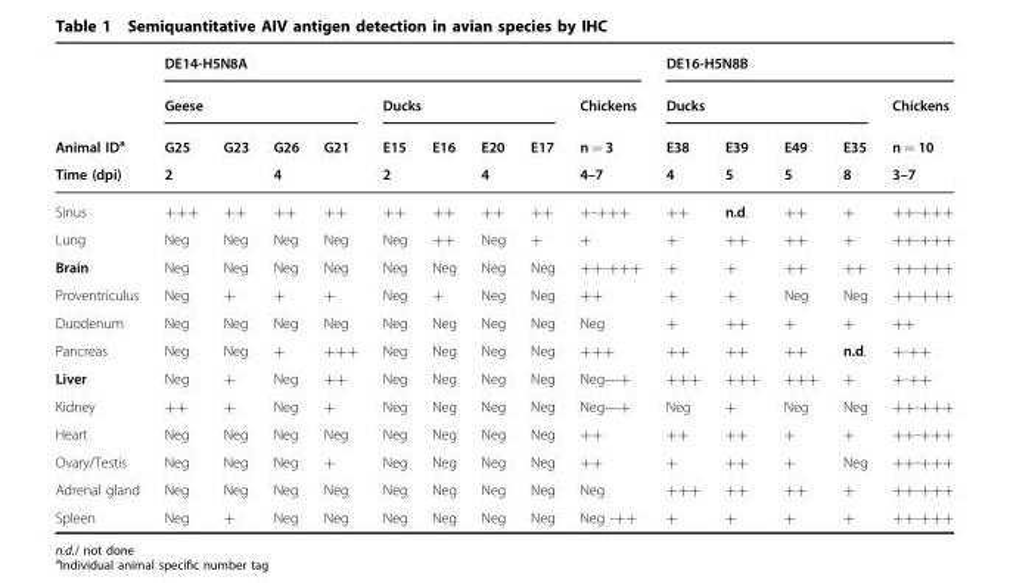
<table><thead><tr><td rowspan="4">Animal ID<sup>a</sup> Time (dpi)</td><td colspan="9">DE14-H5N8A</td><td colspan="5">DE16-H5N8B</td></tr><tr><td colspan="4">Geese</td><td colspan="4">Ducks</td><td rowspan="3">Chickens n = 3 4–7</td><td colspan="4">Ducks</td><td rowspan="3">Chickens n = 10 3–7</td></tr><tr><td>G25</td><td>G23</td><td>G26</td><td>G21</td><td>E15</td><td>E16</td><td>E20</td><td>E17</td><td rowspan="2">E38 4</td><td rowspan="2">E39 5</td><td rowspan="2">E49 5</td><td rowspan="2">E35 8</td></tr><tr><td colspan="2">2</td><td colspan="2">4</td><td colspan="2">2</td><td colspan="2">4</td></tr></thead><tbody><tr><td>Sinus</td><td>+++</td><td>++</td><td>++</td><td>++</td><td>++</td><td>++</td><td>++</td><td>++</td><td>+-+++</td><td>++</td><td>n.d.</td><td>++</td><td>+</td><td>++-+++</td></tr><tr><td>Lung</td><td>Neg</td><td>Neg</td><td>Neg</td><td>Neg</td><td>Neg</td><td>++</td><td>Neg</td><td>+</td><td>+</td><td>+</td><td>++</td><td>++</td><td>+</td><td>++-+++</td></tr><tr><td>Brain</td><td>Neg</td><td>Neg</td><td>Neg</td><td>Neg</td><td>Neg</td><td>Neg</td><td>Neg</td><td>Neg</td><td>++-+++</td><td>+</td><td>+</td><td>++</td><td>++</td><td>++-+++</td></tr><tr><td>Proventriculus</td><td>Neg</td><td>+</td><td>+</td><td>+</td><td>Neg</td><td>+</td><td>Neg</td><td>Neg</td><td>++</td><td>+</td><td>+</td><td>Neg</td><td>Neg</td><td>++-+++</td></tr><tr><td>Duodenum</td><td>Neg</td><td>Neg</td><td>Neg</td><td>Neg</td><td>Neg</td><td>Neg</td><td>Neg</td><td>Neg</td><td>Neg</td><td>+</td><td>++</td><td>+</td><td>+</td><td>++</td></tr><tr><td>Pancreas</td><td>Neg</td><td>Neg</td><td>+</td><td>+++</td><td>Neg</td><td>Neg</td><td>Neg</td><td>Neg</td><td>+++</td><td>++</td><td>++</td><td>++</td><td>n.d.</td><td>+-++</td></tr><tr><td>Liver</td><td>Neg</td><td>+</td><td>Neg</td><td>++</td><td>Neg</td><td>Neg</td><td>Neg</td><td>Neg</td><td>Neg—+</td><td>+++</td><td>+++</td><td>+++</td><td>+</td><td>+-++</td></tr><tr><td>Kidney</td><td>++</td><td>+</td><td>Neg</td><td>+</td><td>Neg</td><td>Neg</td><td>Neg</td><td>Neg</td><td>Neg—+</td><td>Neg</td><td>+</td><td>Neg</td><td>Neg</td><td>++-+++</td></tr><tr><td>Heart</td><td>Neg</td><td>Neg</td><td>Neg</td><td>Neg</td><td>Neg</td><td>Neg</td><td>Neg</td><td>Neg</td><td>++</td><td>++</td><td>++</td><td>+</td><td>+</td><td>++-+++</td></tr><tr><td>Ovary/Testis</td><td>Neg</td><td>Neg</td><td>Neg</td><td>+</td><td>Neg</td><td>Neg</td><td>Neg</td><td>Neg</td><td>++</td><td>+</td><td>++</td><td>+</td><td>Neg</td><td>++-+++</td></tr><tr><td>Adrenal gland</td><td>Neg</td><td>Neg</td><td>Neg</td><td>Neg</td><td>Neg</td><td>Neg</td><td>Neg</td><td>Neg</td><td>Neg</td><td>+++</td><td>++</td><td>++</td><td>+</td><td>++-+++</td></tr><tr><td>Spleen</td><td>Neg</td><td>+</td><td>Neg</td><td>Neg</td><td>Neg</td><td>Neg</td><td>Neg</td><td>Neg</td><td>Neg -++</td><td>+</td><td>+</td><td>+</td><td>+</td><td>++-+++</td></tr></tbody></table>